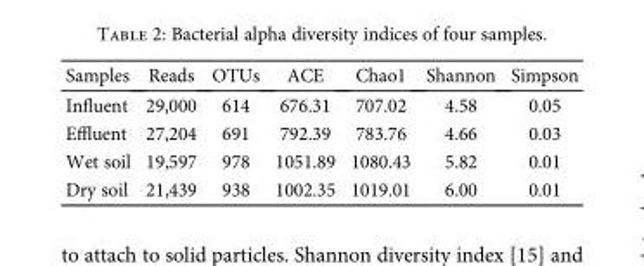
<table><thead><tr><td>Samples</td><td>Reads</td><td>OTUs</td><td>ACE</td><td>Chao1</td><td>Shannon</td><td>Simpson</td></tr></thead><tbody><tr><td>Influent</td><td>29,000</td><td>614</td><td>676.31</td><td>707.02</td><td>4.58</td><td>0.05</td></tr><tr><td>Effluent</td><td>27,204</td><td>691</td><td>792.39</td><td>783.76</td><td>4.66</td><td>0.03</td></tr><tr><td>Wet soil</td><td>19,597</td><td>978</td><td>1051.89</td><td>1080.43</td><td>5.82</td><td>0.01</td></tr><tr><td>Dry soil</td><td>21,439</td><td>938</td><td>1002.35</td><td>1019.01</td><td>6.00</td><td>0.01</td></tr></tbody></table>